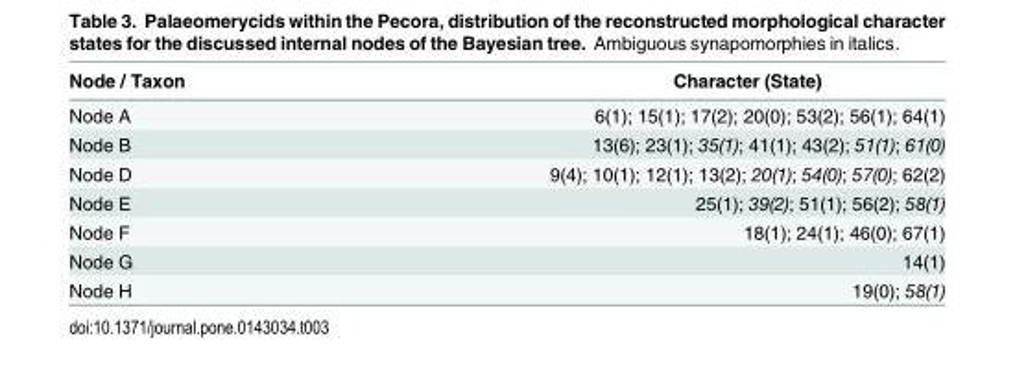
<table><thead><tr><td>Node / Taxon</td><td>Character (State)</td></tr></thead><tbody><tr><td>Node A</td><td>6(1); 15(1); 17(2); 20(0); 53(2); 56(1); 64(1)</td></tr><tr><td>Node B</td><td>13(6); 23(1); 35(1); 41(1); 43(2); 51(1); 61(0)</td></tr><tr><td>Node D</td><td>9(4); 10(1); 12(1); 13(2); 20(1); 54(0); 57(0); 62(2)</td></tr><tr><td>Node E</td><td>25(1); 39(2); 51(1); 56(2); 58(1)</td></tr><tr><td>Node F</td><td>18(1); 24(1); 46(0); 67(1)</td></tr><tr><td>Node G</td><td>14(1)</td></tr><tr><td>Node H</td><td>19(0); 58(1)</td></tr></tbody></table>